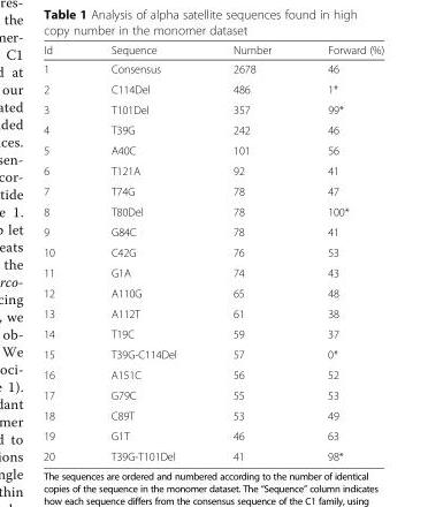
<table><thead><tr><td>Id</td><td>Sequence</td><td>Number</td><td>Forward (%)</td></tr></thead><tbody><tr><td>1</td><td>Consensus</td><td>2678</td><td>46</td></tr><tr><td>2</td><td>C114Del</td><td>486</td><td>1*</td></tr><tr><td>3</td><td>T101Del</td><td>357</td><td>99*</td></tr><tr><td>4</td><td>T39G</td><td>242</td><td>46</td></tr><tr><td>5</td><td>A40C</td><td>101</td><td>56</td></tr><tr><td>6</td><td>T121A</td><td>92</td><td>41</td></tr><tr><td>7</td><td>T74G</td><td>78</td><td>47</td></tr><tr><td>8</td><td>T80Del</td><td>78</td><td>100*</td></tr><tr><td>9</td><td>G84C</td><td>78</td><td>41</td></tr><tr><td>10</td><td>C42G</td><td>76</td><td>53</td></tr><tr><td>11</td><td>G1A</td><td>74</td><td>43</td></tr><tr><td>12</td><td>A110G</td><td>65</td><td>48</td></tr><tr><td>13</td><td>A112T</td><td>61</td><td>38</td></tr><tr><td>14</td><td>T19C</td><td>59</td><td>37</td></tr><tr><td>15</td><td>T39G-C114Del</td><td>57</td><td>0*</td></tr><tr><td>16</td><td>A151C</td><td>56</td><td>52</td></tr><tr><td>17</td><td>G79C</td><td>55</td><td>53</td></tr><tr><td>18</td><td>C89T</td><td>53</td><td>49</td></tr><tr><td>19</td><td>G1T</td><td>46</td><td>63</td></tr><tr><td>20</td><td>T39G-T101Del</td><td>41</td><td>98*</td></tr></tbody></table>